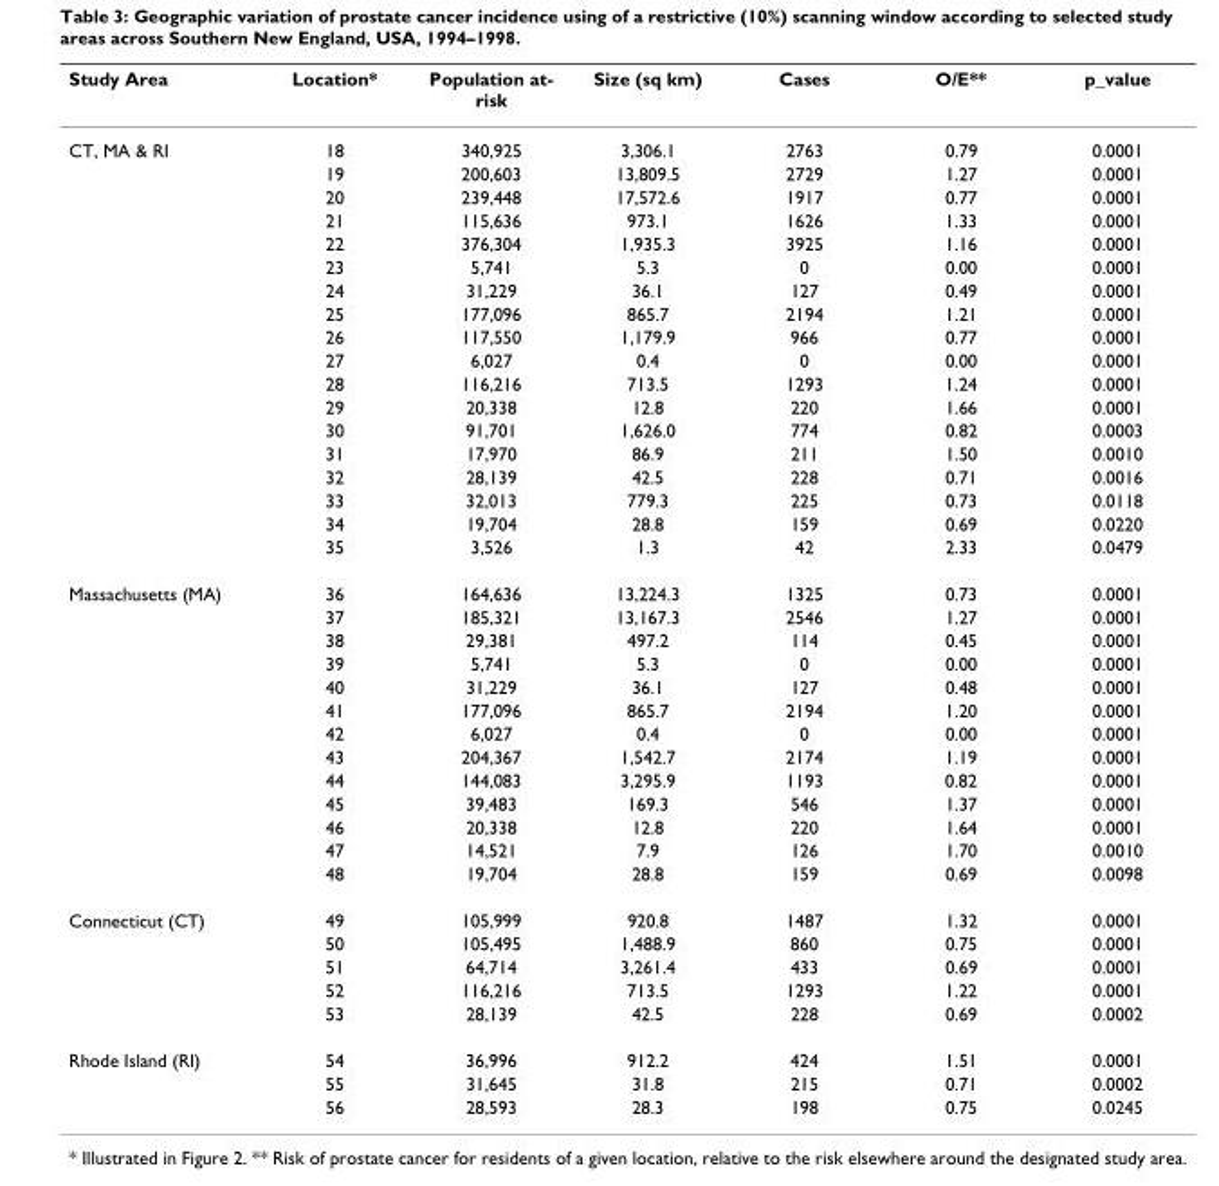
<table><thead><tr><td>Study Area</td><td>Location*</td><td>Population at- risk</td><td>Size (sq km)</td><td>Cases</td><td>O/E**</td><td>p_value</td></tr></thead><tbody><tr><td rowspan="18">CT, MA &amp; RI</td><td>18</td><td>340,925</td><td>3,306.1</td><td>2763</td><td>0.79</td><td>0.0001</td></tr><tr><td>19</td><td>200,603</td><td>13,809.5</td><td>2729</td><td>1.27</td><td>0.0001</td></tr><tr><td>20</td><td>239,448</td><td>17,572.6</td><td>1917</td><td>0.77</td><td>0.0001</td></tr><tr><td>21</td><td>115,636</td><td>973.1</td><td>1626</td><td>1.33</td><td>0.0001</td></tr><tr><td>22</td><td>376,304</td><td>1,935.3</td><td>3925</td><td>1.16</td><td>0.0001</td></tr><tr><td>23</td><td>5,741</td><td>5.3</td><td>0</td><td>0.00</td><td>0.0001</td></tr><tr><td>24</td><td>31,229</td><td>36.1</td><td>127</td><td>0.49</td><td>0.0001</td></tr><tr><td>25</td><td>177,096</td><td>865.7</td><td>2194</td><td>1.21</td><td>0.0001</td></tr><tr><td>26</td><td>117,550</td><td>1,179.9</td><td>966</td><td>0.77</td><td>0.0001</td></tr><tr><td>27</td><td>6,027</td><td>0.4</td><td>0</td><td>0.00</td><td>0.0001</td></tr><tr><td>28</td><td>116,216</td><td>713.5</td><td>1293</td><td>1.24</td><td>0.0001</td></tr><tr><td>29</td><td>20,338</td><td>12.8</td><td>220</td><td>1.66</td><td>0.0001</td></tr><tr><td>30</td><td>91,701</td><td>1,626.0</td><td>774</td><td>0.82</td><td>0.0003</td></tr><tr><td>31</td><td>17,970</td><td>86.9</td><td>211</td><td>1.50</td><td>0.0010</td></tr><tr><td>32</td><td>28,139</td><td>42.5</td><td>228</td><td>0.71</td><td>0.0016</td></tr><tr><td>33</td><td>32,013</td><td>779.3</td><td>225</td><td>0.73</td><td>0.0118</td></tr><tr><td>34</td><td>19,704</td><td>28.8</td><td>159</td><td>0.69</td><td>0.0220</td></tr><tr><td>35</td><td>3,526</td><td>1.3</td><td>42</td><td>2.33</td><td>0.0479</td></tr><tr><td rowspan="13">Massachusetts (MA)</td><td>36</td><td>164,636</td><td>13,224.3</td><td>1325</td><td>0.73</td><td>0.0001</td></tr><tr><td>37</td><td>185,321</td><td>13,167.3</td><td>2546</td><td>1.27</td><td>0.0001</td></tr><tr><td>38</td><td>29,381</td><td>497.2</td><td>114</td><td>0.45</td><td>0.0001</td></tr><tr><td>39</td><td>5,741</td><td>5.3</td><td>0</td><td>0.00</td><td>0.0001</td></tr><tr><td>40</td><td>31,229</td><td>36.1</td><td>127</td><td>0.48</td><td>0.0001</td></tr><tr><td>41</td><td>177,096</td><td>865.7</td><td>2194</td><td>1.20</td><td>0.0001</td></tr><tr><td>42</td><td>6,027</td><td>0.4</td><td>0</td><td>0.00</td><td>0.0001</td></tr><tr><td>43</td><td>204,367</td><td>1,542.7</td><td>2174</td><td>1.19</td><td>0.0001</td></tr><tr><td>44</td><td>144,083</td><td>3,295.9</td><td>1193</td><td>0.82</td><td>0.0001</td></tr><tr><td>45</td><td>39,483</td><td>169.3</td><td>546</td><td>1.37</td><td>0.0001</td></tr><tr><td>46</td><td>20,338</td><td>12.8</td><td>220</td><td>1.64</td><td>0.0001</td></tr><tr><td>47</td><td>14,521</td><td>7.9</td><td>126</td><td>1.70</td><td>0.0010</td></tr><tr><td>48</td><td>19,704</td><td>28.8</td><td>159</td><td>0.69</td><td>0.0098</td></tr><tr><td rowspan="5">Connecticut (CT)</td><td>49</td><td>105,999</td><td>920.8</td><td>1487</td><td>1.32</td><td>0.0001</td></tr><tr><td>50</td><td>105,495</td><td>1,488.9</td><td>860</td><td>0.75</td><td>0.0001</td></tr><tr><td>51</td><td>64,714</td><td>3,261.4</td><td>433</td><td>0.69</td><td>0.0001</td></tr><tr><td>52</td><td>116,216</td><td>713.5</td><td>1293</td><td>1.22</td><td>0.0001</td></tr><tr><td>53</td><td>28,139</td><td>42.5</td><td>228</td><td>0.69</td><td>0.0002</td></tr><tr><td rowspan="3">Rhode Island (RI)</td><td>54</td><td>36,996</td><td>912.2</td><td>424</td><td>1.51</td><td>0.0001</td></tr><tr><td>55</td><td>31,645</td><td>31.8</td><td>215</td><td>0.71</td><td>0.0002</td></tr><tr><td>56</td><td>28,593</td><td>28.3</td><td>198</td><td>0.75</td><td>0.0245</td></tr></tbody></table>